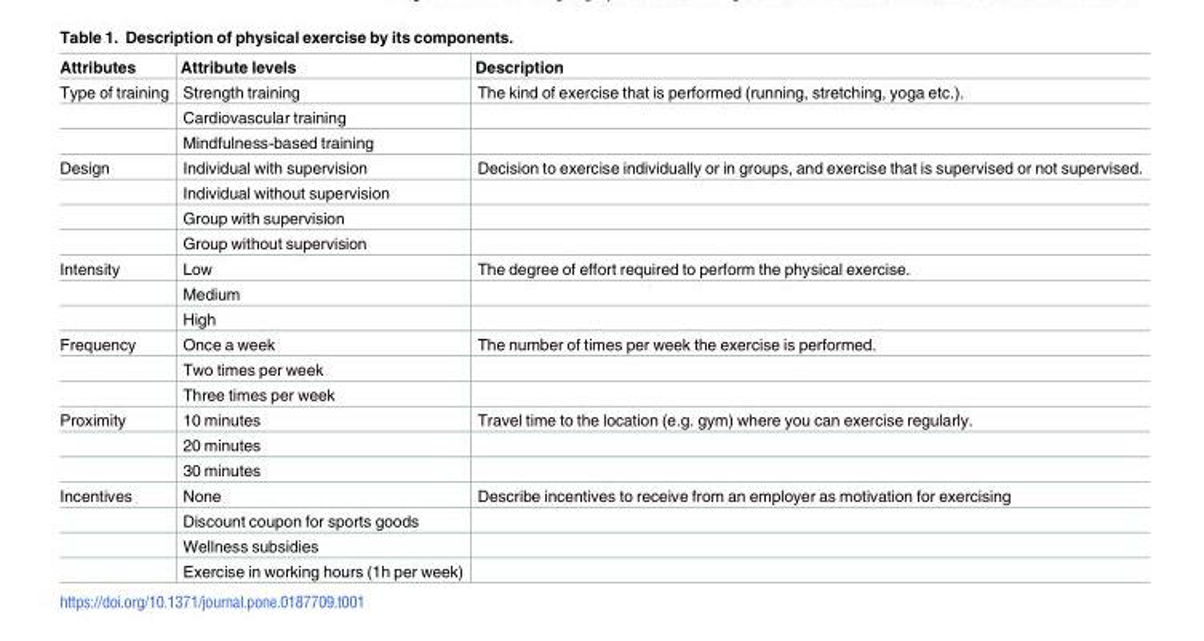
<table><thead><tr><td>Attributes</td><td>Attribute levels</td><td>Description</td></tr></thead><tbody><tr><td rowspan="3">Type of training</td><td>Strength training</td><td>The kind of exercise that is performed (running, stretching, yoga etc.).</td></tr><tr><td>Cardiovascular training</td><td></td></tr><tr><td>Mindfulness-based training</td><td></td></tr><tr><td rowspan="4">Design</td><td>Individual with supervision</td><td>Decision to exercise individually or in groups, and exercise that is supervised or not supervised.</td></tr><tr><td>Individual without supervision</td><td></td></tr><tr><td>Group with supervision</td><td></td></tr><tr><td>Group without supervision</td><td></td></tr><tr><td rowspan="3">Intensity</td><td>Low</td><td>The degree of effort required to perform the physical exercise.</td></tr><tr><td>Medium</td><td></td></tr><tr><td>High</td><td></td></tr><tr><td rowspan="3">Frequency</td><td>Once a week</td><td>The number of times per week the exercise is performed.</td></tr><tr><td>Two times per week</td><td></td></tr><tr><td>Three times per week</td><td></td></tr><tr><td rowspan="3">Proximity</td><td>10 minutes</td><td>Travel time to the location (e.g. gym) where you can exercise regularly.</td></tr><tr><td>20 minutes</td><td></td></tr><tr><td>30 minutes</td><td></td></tr><tr><td rowspan="4">Incentives</td><td>None</td><td>Describe incentives to receive from an employer as motivation for exercising</td></tr><tr><td>Discount coupon for sports goods</td><td></td></tr><tr><td>Wellness subsidies</td><td></td></tr><tr><td>Exercise in working hours (1h per week)</td><td></td></tr></tbody></table>